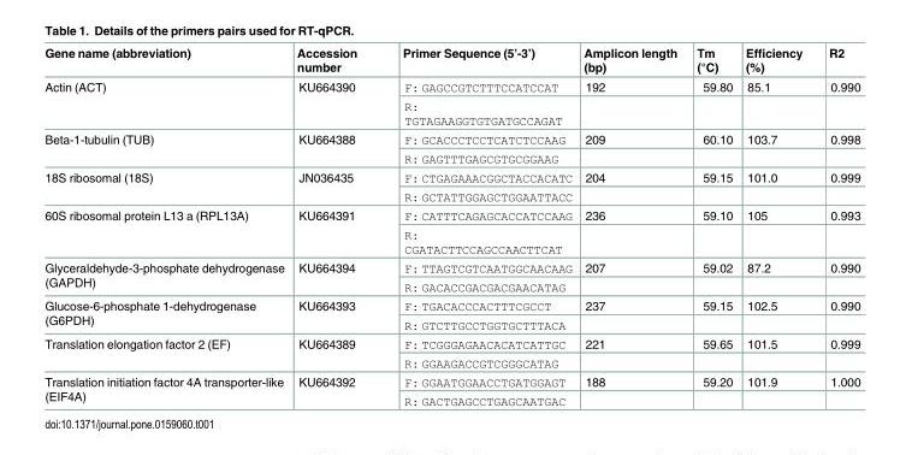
<table><thead><tr><td>Gene name (abbreviation)</td><td>Accession number</td><td>Primer Sequence (5’-3’)</td><td>Amplicon length (bp)</td><td>Tm (°C)</td><td>Efficiency (%)</td><td>R2</td></tr></thead><tbody><tr><td rowspan="2">Actin (ACT)</td><td rowspan="2">KU664390</td><td>F: GAGCCGTCTTTCCATCCAT</td><td>192</td><td>59.80</td><td>85.1</td><td>0.990</td></tr><tr><td>R: TGTAGAAGGTGTGATGCCAGAT</td><td></td><td></td><td></td><td></td></tr><tr><td rowspan="2">Beta-1-tubulin (TUB)</td><td rowspan="2">KU664388</td><td>F: GCACCCTCCTCATCTCCAAG</td><td>209</td><td>60.10</td><td>103.7</td><td>0.998</td></tr><tr><td>R: GAGTTTGAGCGTGCGGAAG</td><td></td><td></td><td></td><td></td></tr><tr><td rowspan="2">18S ribosomal (18S)</td><td rowspan="2">JN036435</td><td>F: CTGAGAAACGGCTACCACATC</td><td>204</td><td>59.15</td><td>101.0</td><td>0.999</td></tr><tr><td>R: GCTATTGGAGCTGGAATTACC</td><td></td><td></td><td></td><td></td></tr><tr><td rowspan="2">60S ribosomal protein L13 a (RPL13A)</td><td rowspan="2">KU664391</td><td>F: CATTTCAGAGCACCATCCAAG</td><td>236</td><td>59.10</td><td>105</td><td>0.993</td></tr><tr><td>R: CGATACTTCCAGCCAACTTCAT</td><td></td><td></td><td></td><td></td></tr><tr><td rowspan="2">Glyceraldehyde-3-phosphate dehydrogenase (GAPDH)</td><td rowspan="2">KU664394</td><td>F: TTAGTCGTCAATGGCAACAAG</td><td>207</td><td>59.02</td><td>87.2</td><td>0.990</td></tr><tr><td>R: GACACCGACGACGAACATAG</td><td></td><td></td><td></td><td></td></tr><tr><td rowspan="2">Glucose-6-phosphate 1-dehydrogenase (G6PDH)</td><td rowspan="2">KU664393</td><td>F: TGACACCCACTTTCGCCT</td><td>237</td><td>59.15</td><td>102.5</td><td>0.990</td></tr><tr><td>R: GTCTTGCCTGGTGCTTTACA</td><td></td><td></td><td></td><td></td></tr><tr><td rowspan="2">Translation elongation factor 2 (EF)</td><td rowspan="2">KU664389</td><td>F: TCGGGAGAACACATCATTGC</td><td>221</td><td>59.65</td><td>101.5</td><td>0.999</td></tr><tr><td>R: GGAAGACCGTCGGGCATAG</td><td></td><td></td><td></td><td></td></tr><tr><td rowspan="2">Translation initiation factor 4A transporter-like (EIF4A)</td><td rowspan="2">KU664392</td><td>F: GGAATGGAACCTGATGGAGT</td><td>188</td><td>59.20</td><td>101.9</td><td>1.000</td></tr><tr><td>R: GACTGAGCCTGAGCAATGAC</td><td></td><td></td><td></td><td></td></tr></tbody></table>